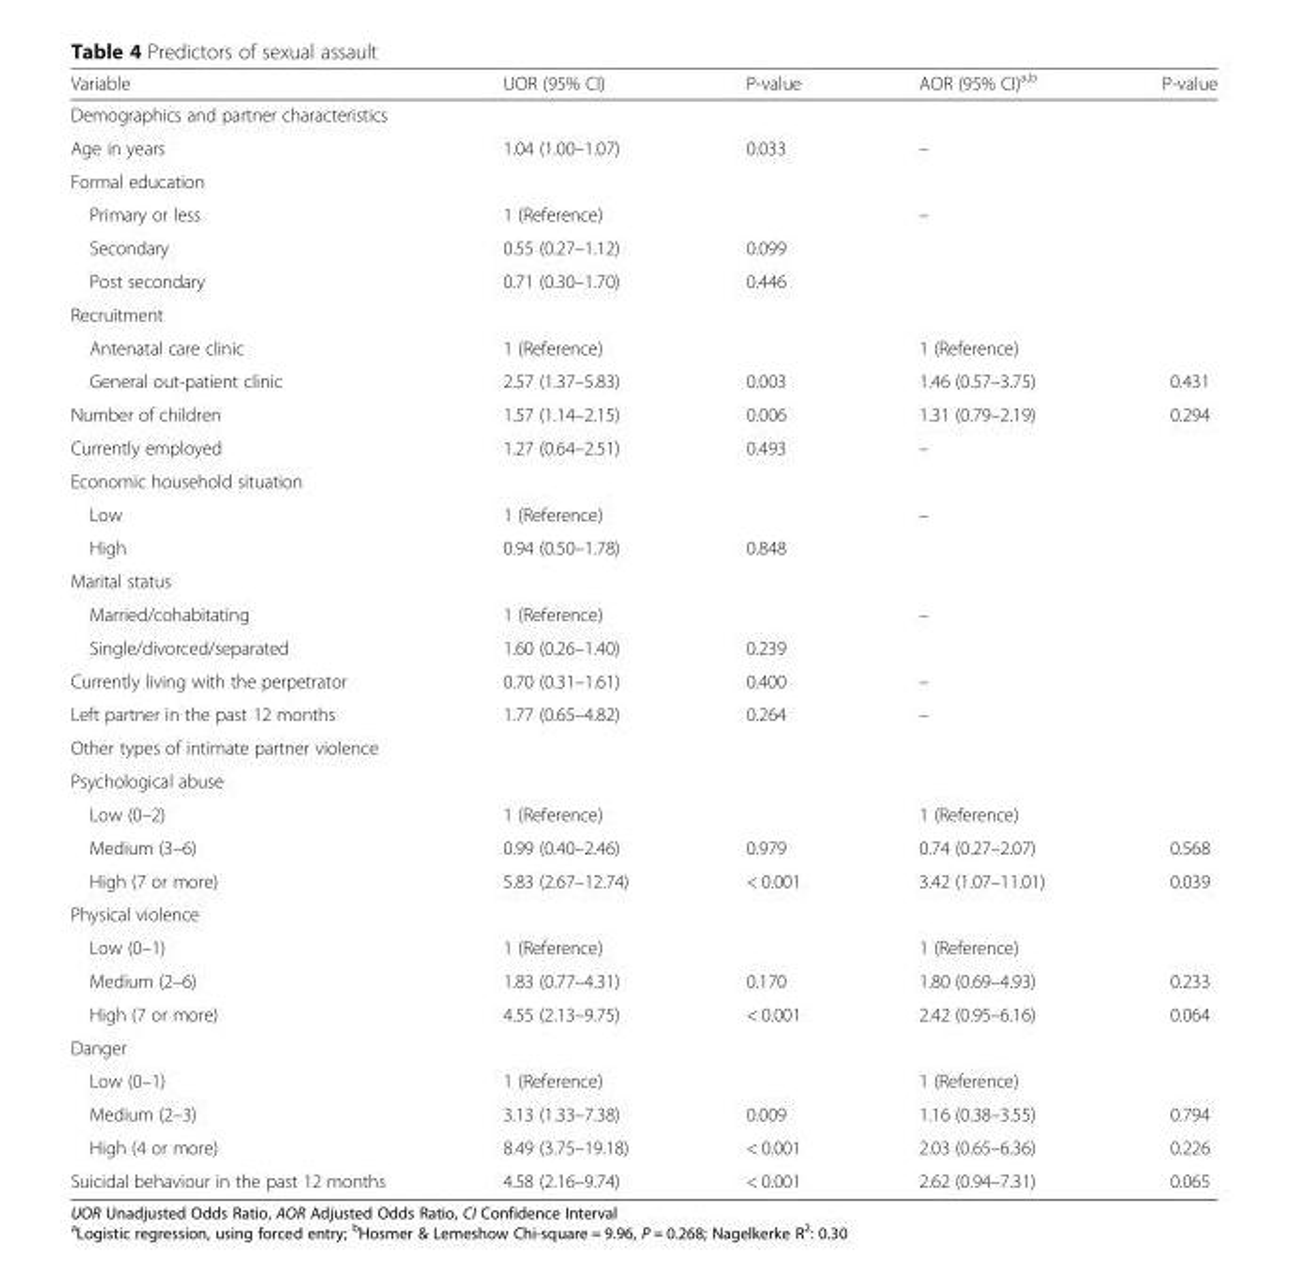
<table><thead><tr><td>Variable</td><td>UOR (95% CI)</td><td>P-value</td><td>AOR (95% CI)<sup>a,b</sup></td><td>P-value</td></tr></thead><tbody><tr><td colspan="5">Demographics and partner characteristics</td></tr><tr><td>Age in years</td><td>1.04 (1.00–1.07)</td><td>0.033</td><td>–</td><td></td></tr><tr><td colspan="5">Formal education</td></tr><tr><td>Primary or less</td><td>1 (Reference)</td><td></td><td>–</td><td></td></tr><tr><td>Secondary</td><td>0.55 (0.27–1.12)</td><td>0.099</td><td></td><td></td></tr><tr><td>Post secondary</td><td>0.71 (0.30–1.70)</td><td>0.446</td><td></td><td></td></tr><tr><td colspan="5">Recruitment</td></tr><tr><td>Antenatal care clinic</td><td>1 (Reference)</td><td></td><td>1 (Reference)</td><td></td></tr><tr><td>General out-patient clinic</td><td>2.57 (1.37–5.83)</td><td>0.003</td><td>1.46 (0.57–3.75)</td><td>0.431</td></tr><tr><td>Number of children</td><td>1.57 (1.14–2.15)</td><td>0.006</td><td>1.31 (0.79–2.19)</td><td>0.294</td></tr><tr><td>Currently employed</td><td>1.27 (0.64–2.51)</td><td>0.493</td><td>–</td><td></td></tr><tr><td colspan="5">Economic household situation</td></tr><tr><td>Low</td><td>1 (Reference)</td><td></td><td>–</td><td></td></tr><tr><td>High</td><td>0.94 (0.50–1.78)</td><td>0.848</td><td></td><td></td></tr><tr><td colspan="5">Marital status</td></tr><tr><td>Married/cohabitating</td><td>1 (Reference)</td><td></td><td>–</td><td></td></tr><tr><td>Single/divorced/separated</td><td>1.60 (0.26–1.40)</td><td>0.239</td><td></td><td></td></tr><tr><td>Currently living with the perpetrator</td><td>0.70 (0.31–1.61)</td><td>0.400</td><td>–</td><td></td></tr><tr><td>Left partner in the past 12 months</td><td>1.77 (0.65–4.82)</td><td>0.264</td><td>–</td><td></td></tr><tr><td colspan="5">Other types of intimate partner violence</td></tr><tr><td colspan="5">Psychological abuse</td></tr><tr><td>Low (0–2)</td><td>1 (Reference)</td><td></td><td>1 (Reference)</td><td></td></tr><tr><td>Medium (3–6)</td><td>0.99 (0.40–2.46)</td><td>0.979</td><td>0.74 (0.27–2.07)</td><td>0.568</td></tr><tr><td>High (7 or more)</td><td>5.83 (2.67–12.74)</td><td>&lt; 0.001</td><td>3.42 (1.07–11.01)</td><td>0.039</td></tr><tr><td colspan="5">Physical violence</td></tr><tr><td>Low (0–1)</td><td>1 (Reference)</td><td></td><td>1 (Reference)</td><td></td></tr><tr><td>Medium (2–6)</td><td>1.83 (0.77–4.31)</td><td>0.170</td><td>1.80 (0.69–4.93)</td><td>0.233</td></tr><tr><td>High (7 or more)</td><td>4.55 (2.13–9.75)</td><td>&lt; 0.001</td><td>2.42 (0.95–6.16)</td><td>0.064</td></tr><tr><td colspan="5">Danger</td></tr><tr><td>Low (0–1)</td><td>1 (Reference)</td><td></td><td>1 (Reference)</td><td></td></tr><tr><td>Medium (2–3)</td><td>3.13 (1.33–7.38)</td><td>0.009</td><td>1.16 (0.38–3.55)</td><td>0.794</td></tr><tr><td>High (4 or more)</td><td>8.49 (3.75–19.18)</td><td>&lt; 0.001</td><td>2.03 (0.65–6.36)</td><td>0.226</td></tr><tr><td>Suicidal behaviour in the past 12 months</td><td>4.58 (2.16–9.74)</td><td>&lt; 0.001</td><td>2.62 (0.94–7.31)</td><td>0.065</td></tr></tbody></table>